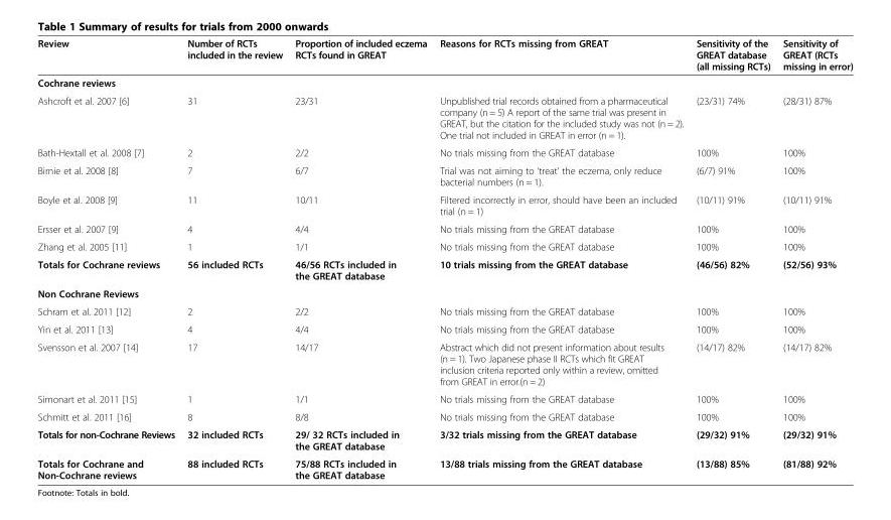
<table><thead><tr><td>Review</td><td>Number of RCTs included in the review</td><td>Proportion of included eczema RCTs found in GREAT</td><td>Reasons for RCTs missing from GREAT</td><td>Sensitivity of the GREAT database (all missing RCTs)</td><td>Sensitivity of GREAT (RCTs missing in error)</td></tr></thead><tbody><tr><td colspan="6">Cochrane reviews</td></tr><tr><td>Ashcroft et al. 2007 [6]</td><td>31</td><td>23/31</td><td>Unpublished trial records obtained from a pharmaceutical company (n = 5) A report of the same trial was present in GREAT, but the citation for the included study was not (n = 2). One trial not included in GREAT in error (n = 1).</td><td>(23/31) 74%</td><td>(28/31) 87%</td></tr><tr><td>Bath-Hextall et al. 2008 [7]</td><td>2</td><td>2/2</td><td>No trials missing from the GREAT database</td><td>100%</td><td>100%</td></tr><tr><td>Birnie et al. 2008 [8]</td><td>7</td><td>6/7</td><td>Trial was not aiming to ‘treat’ the eczema, only reduce bacterial numbers (n = 1).</td><td>(6/7) 91%</td><td>100%</td></tr><tr><td>Boyle et al. 2008 [9]</td><td>11</td><td>10/11</td><td>Filtered incorrectly in error, should have been an included trial (n = 1)</td><td>(10/11) 91%</td><td>(10/11) 91%</td></tr><tr><td>Ersser et al. 2007 [9]</td><td>4</td><td>4/4</td><td>No trials missing from the GREAT database</td><td>100%</td><td>100%</td></tr><tr><td>Zhang et al. 2005 [11]</td><td>1</td><td>1/1</td><td>No trials missing from the GREAT database</td><td>100%</td><td>100%</td></tr><tr><td>Totals for Cochrane reviews</td><td>56 included RCTs</td><td>46/56 RCTs included in the GREAT database</td><td>10 trials missing from the GREAT database</td><td>(46/56) 82%</td><td>(52/56) 93%</td></tr><tr><td colspan="6">Non Cochrane Reviews</td></tr><tr><td>Schram et al. 2011 [12]</td><td>2</td><td>2/2</td><td>No trials missing from the GREAT database</td><td>100%</td><td>100%</td></tr><tr><td>Yin et al. 2011 [13]</td><td>4</td><td>4/4</td><td>No trials missing from the GREAT database</td><td>100%</td><td>100%</td></tr><tr><td>Svensson et al. 2007 [14]</td><td>17</td><td>14/17</td><td>Abstract which did not present information about results (n = 1). Two Japanese phase II RCTs which fit GREAT inclusion criteria reported only within a review, omitted from GREAT in error.(n = 2)</td><td>(14/17) 82%</td><td>(14/17) 82%</td></tr><tr><td>Simonart et al. 2011 [15]</td><td>1</td><td>1/1</td><td>No trials missing from the GREAT database</td><td>100%</td><td>100%</td></tr><tr><td>Schmitt et al. 2011 [16]</td><td>8</td><td>8/8</td><td>No trials missing from the GREAT database</td><td>100%</td><td>100%</td></tr><tr><td>Totals for non-Cochrane Reviews</td><td>32 included RCTs</td><td>29/ 32 RCTs included in the GREAT database</td><td>3/32 trials missing from the GREAT database</td><td>(29/32) 91%</td><td>(29/32) 91%</td></tr><tr><td>Totals for Cochrane and Non-Cochrane reviews</td><td>88 included RCTs</td><td>75/88 RCTs included in the GREAT database</td><td>13/88 trials missing from the GREAT database</td><td>(13/88) 85%</td><td>(81/88) 92%</td></tr></tbody></table>